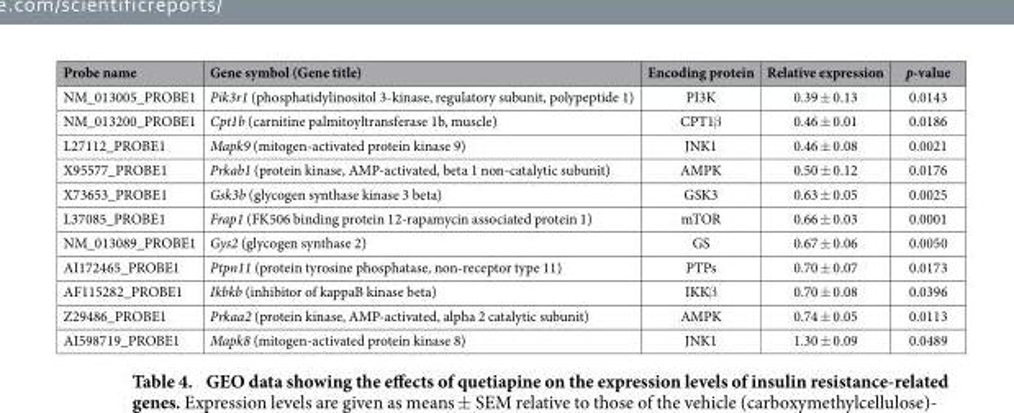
<table><thead><tr><td>Probe name</td><td>Gene symbol (Gene title)</td><td>Encoding protein</td><td>Relative expression</td><td>p-value</td></tr></thead><tbody><tr><td>NM_013005_PROBE1</td><td>Pik3r1 (phosphatidylinositol 3-kinase, regulatory subunit, polypeptide 1)</td><td>PI3K</td><td>0.39 ± 0.13</td><td>0.0143</td></tr><tr><td>NM_013200_PROBE1</td><td>Cpt1b (carnitine palmitoyltransferase 1b, muscle)</td><td>CPT1β</td><td>0.46 ± 0.01</td><td>0.0186</td></tr><tr><td>L27112_PROBE1</td><td>Mapk9 (mitogen-activated protein kinase 9)</td><td>JNK1</td><td>0.46 ± 0.08</td><td>0.0021</td></tr><tr><td>X95577_PROBE1</td><td>Prkab1 (protein kinase, AMP-activated, beta 1 non-catalytic subunit)</td><td>AMPK</td><td>0.50 ± 0.12</td><td>0.0176</td></tr><tr><td>X73653_PROBE1</td><td>Gsk3b (glycogen synthase kinase 3 beta)</td><td>GSK3</td><td>0.63 ± 0.05</td><td>0.0025</td></tr><tr><td>L37085_PROBE1</td><td>Frap1 (FK506 binding protein 12-rapamycin associated protein 1)</td><td>mTOR</td><td>0.66 ± 0.03</td><td>0.0001</td></tr><tr><td>NM_013089_PROBE1</td><td>Gys2 (glycogen synthase 2)</td><td>GS</td><td>0.67 ± 0.06</td><td>0.0050</td></tr><tr><td>AI172465_PROBE1</td><td>Ptpn11 (protein tyrosine phosphatase, non-receptor type 11)</td><td>PTPs</td><td>0.70 ± 0.07</td><td>0.0173</td></tr><tr><td>AF115282_PROBE1</td><td>Ikbkb (inhibitor of kappaB kinase beta)</td><td>IKKβ</td><td>0.70 ± 0.08</td><td>0.0396</td></tr><tr><td>Z29486_PROBE1</td><td>Prkaa2 (protein kinase, AMP-activated, alpha 2 catalytic subunit)</td><td>AMPK</td><td>0.74 ± 0.05</td><td>0.0113</td></tr><tr><td>AI598719_PROBE1</td><td>Mapk8 (mitogen-activated protein kinase 8)</td><td>JNK1</td><td>1.30 ± 0.09</td><td>0.0489</td></tr></tbody></table>